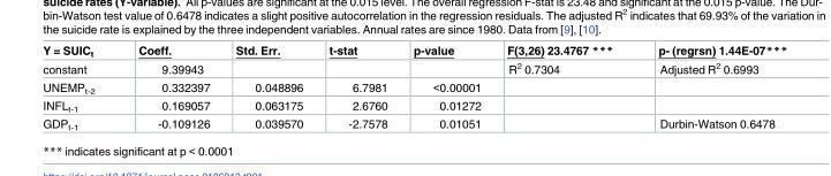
<table><thead><tr><td>Y = SUIC<sub>t</sub></td><td>Coeff.</td><td>Std. Err.</td><td>t-stat</td><td>p-value</td><td>F(3,26) 23.4767 ***</td><td>p- (regrsn) 1.44E-07***</td></tr></thead><tbody><tr><td>constant</td><td>9.39943</td><td></td><td></td><td></td><td>R<sup>2</sup> 0.7304</td><td>Adjusted R<sup>2</sup> 0.6993</td></tr><tr><td>UNEMP<sub>t-2</sub></td><td>0.332397</td><td>0.048896</td><td>6.7981</td><td>&lt;0.00001</td><td></td><td></td></tr><tr><td>INFL<sub>t-1</sub></td><td>0.169057</td><td>0.063175</td><td>2.6760</td><td>0.01272</td><td></td><td></td></tr><tr><td>GDP<sub>t-1</sub></td><td>-0.109126</td><td>0.039570</td><td>-2.7578</td><td>0.01051</td><td></td><td>Durbin-Watson 0.6478</td></tr></tbody></table>